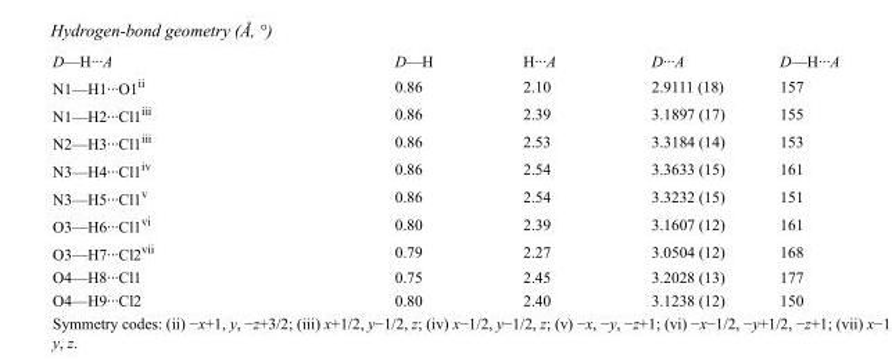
<table><tbody><tr><td>D—H···A</td><td>D—H</td><td>H···A</td><td>D···A</td><td>D—H···A</td></tr><tr><td>N1—H1···O1<sup>ii</sup></td><td>0.86</td><td>2.10</td><td>2.9111 (18)</td><td>157</td></tr><tr><td>N1—H2···Cl1<sup>iii</sup></td><td>0.86</td><td>2.39</td><td>3.1897 (17)</td><td>155</td></tr><tr><td>N2—H3···Cl1<sup>iii</sup></td><td>0.86</td><td>2.53</td><td>3.3184 (14)</td><td>153</td></tr><tr><td>N3—H4···Cl1<sup>iv</sup></td><td>0.86</td><td>2.54</td><td>3.3633 (15)</td><td>161</td></tr><tr><td>N3—H5···Cl1<sup>v</sup></td><td>0.86</td><td>2.54</td><td>3.3232 (15)</td><td>151</td></tr><tr><td>O3—H6···Cl1<sup>vi</sup></td><td>0.80</td><td>2.39</td><td>3.1607 (12)</td><td>161</td></tr><tr><td>O3—H7···Cl2<sup>vii</sup></td><td>0.79</td><td>2.27</td><td>3.0504 (12)</td><td>168</td></tr><tr><td>O4—H8···Cl1</td><td>0.75</td><td>2.45</td><td>3.2028 (13)</td><td>177</td></tr><tr><td>O4—H9···Cl2</td><td>0.80</td><td>2.40</td><td>3.1238 (12)</td><td>150</td></tr></tbody></table>